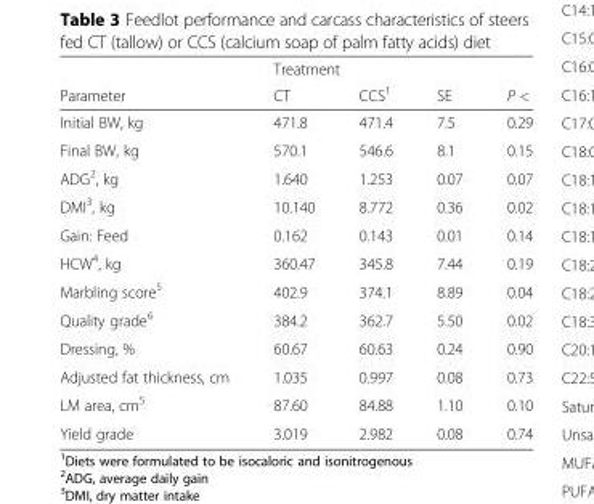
<table><thead><tr><td rowspan="2">Parameter</td><td colspan="4">Treatment</td></tr><tr><td>CT</td><td>CCS<sup>1</sup></td><td>SE</td><td>P &lt;</td></tr></thead><tbody><tr><td>Initial BW, kg</td><td>471.8</td><td>471.4</td><td>7.5</td><td>0.29</td></tr><tr><td>Final BW, kg</td><td>570.1</td><td>546.6</td><td>8.1</td><td>0.15</td></tr><tr><td>ADG<sup>2</sup>, kg</td><td>1.640</td><td>1.253</td><td>0.07</td><td>0.07</td></tr><tr><td>DMI<sup>3</sup>, kg</td><td>10.140</td><td>8.772</td><td>0.36</td><td>0.02</td></tr><tr><td>Gain: Feed</td><td>0.162</td><td>0.143</td><td>0.01</td><td>0.14</td></tr><tr><td>HCW<sup>4</sup>, kg</td><td>360.47</td><td>345.8</td><td>7.44</td><td>0.19</td></tr><tr><td>Marbling score<sup>5</sup></td><td>402.9</td><td>374.1</td><td>8.89</td><td>0.04</td></tr><tr><td>Quality grade<sup>6</sup></td><td>384.2</td><td>362.7</td><td>5.50</td><td>0.02</td></tr><tr><td>Dressing, %</td><td>60.67</td><td>60.63</td><td>0.24</td><td>0.90</td></tr><tr><td>Adjusted fat thickness, cm</td><td>1.035</td><td>0.997</td><td>0.08</td><td>0.73</td></tr><tr><td>LM area, cm<sup>5</sup></td><td>87.60</td><td>84.88</td><td>1.10</td><td>0.10</td></tr><tr><td>Yield grade</td><td>3.019</td><td>2.982</td><td>0.08</td><td>0.74</td></tr></tbody></table>